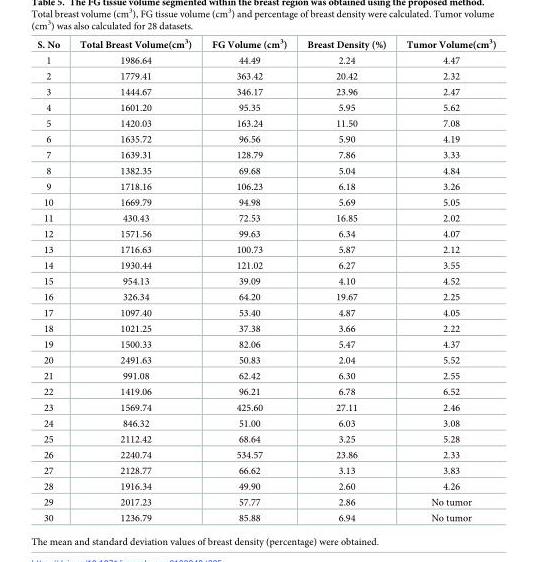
<table><thead><tr><td>S. No</td><td>Total Breast Volume(cm<sup>3</sup>)</td><td>FG Volume (cm<sup>3</sup>)</td><td>Breast Density (%)</td><td>Tumor Volume(cm<sup>3</sup>)</td></tr></thead><tbody><tr><td>1</td><td>1986.64</td><td>44.49</td><td>2.24</td><td>4.47</td></tr><tr><td>2</td><td>1779.41</td><td>363.42</td><td>20.42</td><td>2.32</td></tr><tr><td>3</td><td>1444.67</td><td>346.17</td><td>23.96</td><td>2.47</td></tr><tr><td>4</td><td>1601.20</td><td>95.35</td><td>5.95</td><td>5.62</td></tr><tr><td>5</td><td>1420.03</td><td>163.24</td><td>11.50</td><td>7.08</td></tr><tr><td>6</td><td>1635.72</td><td>96.56</td><td>5.90</td><td>4.19</td></tr><tr><td>7</td><td>1639.31</td><td>128.79</td><td>7.86</td><td>3.33</td></tr><tr><td>8</td><td>1382.35</td><td>69.68</td><td>5.04</td><td>4.84</td></tr><tr><td>9</td><td>1718.16</td><td>106.23</td><td>6.18</td><td>3.26</td></tr><tr><td>10</td><td>1669.79</td><td>94.98</td><td>5.69</td><td>5.05</td></tr><tr><td>11</td><td>430.43</td><td>72.53</td><td>16.85</td><td>2.02</td></tr><tr><td>12</td><td>1571.56</td><td>99.63</td><td>6.34</td><td>4.07</td></tr><tr><td>13</td><td>1716.63</td><td>100.73</td><td>5.87</td><td>2.12</td></tr><tr><td>14</td><td>1930.44</td><td>121.02</td><td>6.27</td><td>3.55</td></tr><tr><td>15</td><td>954.13</td><td>39.09</td><td>4.10</td><td>4.52</td></tr><tr><td>16</td><td>326.34</td><td>64.20</td><td>19.67</td><td>2.25</td></tr><tr><td>17</td><td>1097.40</td><td>53.40</td><td>4.87</td><td>4.05</td></tr><tr><td>18</td><td>1021.25</td><td>37.38</td><td>3.66</td><td>2.22</td></tr><tr><td>19</td><td>1500.33</td><td>82.06</td><td>5.47</td><td>4.37</td></tr><tr><td>20</td><td>2491.63</td><td>50.83</td><td>2.04</td><td>5.52</td></tr><tr><td>21</td><td>991.08</td><td>62.42</td><td>6.30</td><td>2.55</td></tr><tr><td>22</td><td>1419.06</td><td>96.21</td><td>6.78</td><td>6.52</td></tr><tr><td>23</td><td>1569.74</td><td>425.60</td><td>27.11</td><td>2.46</td></tr><tr><td>24</td><td>846.32</td><td>51.00</td><td>6.03</td><td>3.08</td></tr><tr><td>25</td><td>2112.42</td><td>68.64</td><td>3.25</td><td>5.28</td></tr><tr><td>26</td><td>2240.74</td><td>534.57</td><td>23.86</td><td>2.33</td></tr><tr><td>27</td><td>2128.77</td><td>66.62</td><td>3.13</td><td>3.83</td></tr><tr><td>28</td><td>1916.34</td><td>49.90</td><td>2.60</td><td>4.26</td></tr><tr><td>29</td><td>2017.23</td><td>57.77</td><td>2.86</td><td>No tumor</td></tr><tr><td>30</td><td>1236.79</td><td>85.88</td><td>6.94</td><td>No tumor</td></tr></tbody></table>